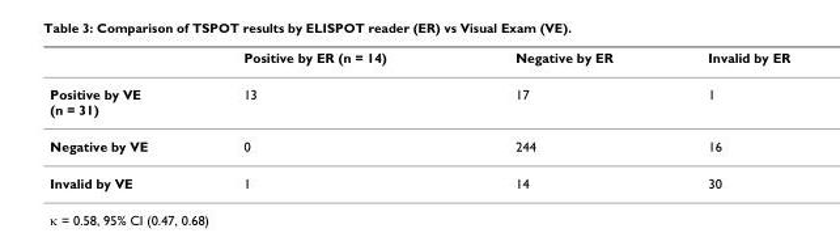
<table><thead><tr><td></td><td>Positive by ER (n = 14)</td><td>Negative by ER</td><td>Invalid by ER</td></tr></thead><tbody><tr><td>Positive by VE (n = 31)</td><td>13</td><td>17</td><td>1</td></tr><tr><td>Negative by VE</td><td>0</td><td>244</td><td>16</td></tr><tr><td>Invalid by VE</td><td>1</td><td>14</td><td>30</td></tr></tbody></table>